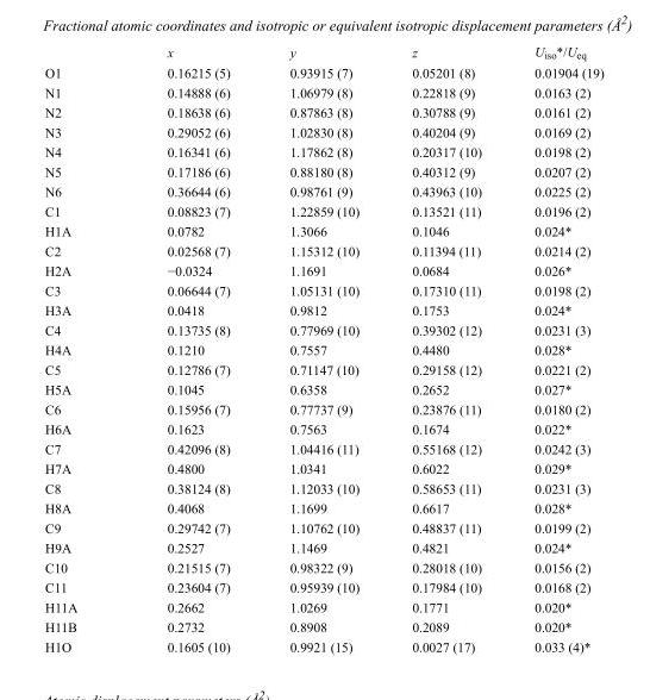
<table><thead><tr><td></td><td>x</td><td>y</td><td>z</td><td>U<sub>iso</sub>*/U<sub>eq</sub></td></tr></thead><tbody><tr><td>O1</td><td>0.16215 (5)</td><td>0.93915 (7)</td><td>0.05201 (8)</td><td>0.01904 (19)</td></tr><tr><td>N1</td><td>0.14888 (6)</td><td>1.06979 (8)</td><td>0.22818 (9)</td><td>0.0163 (2)</td></tr><tr><td>N2</td><td>0.18638 (6)</td><td>0.87863 (8)</td><td>0.30788 (9)</td><td>0.0161 (2)</td></tr><tr><td>N3</td><td>0.29052 (6)</td><td>1.02830 (8)</td><td>0.40204 (9)</td><td>0.0169 (2)</td></tr><tr><td>N4</td><td>0.16341 (6)</td><td>1.17862 (8)</td><td>0.20317 (10)</td><td>0.0198 (2)</td></tr><tr><td>N5</td><td>0.17186 (6)</td><td>0.88180 (8)</td><td>0.40312 (9)</td><td>0.0207 (2)</td></tr><tr><td>N6</td><td>0.36644 (6)</td><td>0.98761 (9)</td><td>0.43963 (10)</td><td>0.0225 (2)</td></tr><tr><td>C1</td><td>0.08823 (7)</td><td>1.22859 (10)</td><td>0.13521 (11)</td><td>0.0196 (2)</td></tr><tr><td>H1A</td><td>0.0782</td><td>1.3066</td><td>0.1046</td><td>0.024*</td></tr><tr><td>C2</td><td>0.02568 (7)</td><td>1.15312 (10)</td><td>0.11394 (11)</td><td>0.0214 (2)</td></tr><tr><td>H2A</td><td>−0.0324</td><td>1.1691</td><td>0.0684</td><td>0.026*</td></tr><tr><td>C3</td><td>0.06644 (7)</td><td>1.05131 (10)</td><td>0.17310 (11)</td><td>0.0198 (2)</td></tr><tr><td>H3A</td><td>0.0418</td><td>0.9812</td><td>0.1753</td><td>0.024*</td></tr><tr><td>C4</td><td>0.13735 (8)</td><td>0.77969 (10)</td><td>0.39302 (12)</td><td>0.0231 (3)</td></tr><tr><td>H4A</td><td>0.1210</td><td>0.7557</td><td>0.4480</td><td>0.028*</td></tr><tr><td>C5</td><td>0.12786 (7)</td><td>0.71147 (10)</td><td>0.29158 (12)</td><td>0.0221 (2)</td></tr><tr><td>H5A</td><td>0.1045</td><td>0.6358</td><td>0.2652</td><td>0.027*</td></tr><tr><td>C6</td><td>0.15956 (7)</td><td>0.77737 (9)</td><td>0.23876 (11)</td><td>0.0180 (2)</td></tr><tr><td>H6A</td><td>0.1623</td><td>0.7563</td><td>0.1674</td><td>0.022*</td></tr><tr><td>C7</td><td>0.42096 (8)</td><td>1.04416 (11)</td><td>0.55168 (12)</td><td>0.0242 (3)</td></tr><tr><td>H7A</td><td>0.4800</td><td>1.0341</td><td>0.6022</td><td>0.029*</td></tr><tr><td>C8</td><td>0.38124 (8)</td><td>1.12033 (10)</td><td>0.58653 (11)</td><td>0.0231 (3)</td></tr><tr><td>H8A</td><td>0.4068</td><td>1.1699</td><td>0.6617</td><td>0.028*</td></tr><tr><td>C9</td><td>0.29742 (7)</td><td>1.10762 (10)</td><td>0.48837 (11)</td><td>0.0199 (2)</td></tr><tr><td>H9A</td><td>0.2527</td><td>1.1469</td><td>0.4821</td><td>0.024*</td></tr><tr><td>C10</td><td>0.21515 (7)</td><td>0.98322 (9)</td><td>0.28018 (10)</td><td>0.0156 (2)</td></tr><tr><td>C11</td><td>0.23604 (7)</td><td>0.95939 (10)</td><td>0.17984 (10)</td><td>0.0168 (2)</td></tr><tr><td>H11A</td><td>0.2662</td><td>1.0269</td><td>0.1771</td><td>0.020*</td></tr><tr><td>H11B</td><td>0.2732</td><td>0.8908</td><td>0.2089</td><td>0.020*</td></tr><tr><td>H1O</td><td>0.1605 (10)</td><td>0.9921 (15)</td><td>0.0027 (17)</td><td>0.033 (4)*</td></tr></tbody></table>